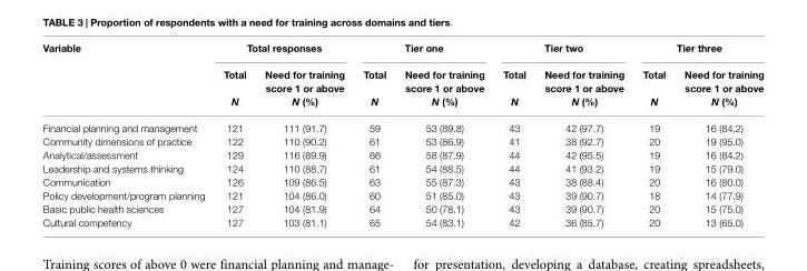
<table><thead><tr><td rowspan="3">Variable</td><td colspan="2">Total responses</td><td colspan="2">Tier one</td><td colspan="2">Tier two</td><td colspan="2">Tier three</td></tr><tr><td rowspan="2">Total N</td><td rowspan="2">Need for training score 1 or above N (%)</td><td rowspan="2">Total N</td><td rowspan="2">Need for training score 1 or above N (%)</td><td rowspan="2">Total N</td><td rowspan="2">Need for training score 1 or above N (%)</td><td rowspan="2">Total N</td><td rowspan="2">Need for training score 1 or above N (%)</td></tr><tr></tr></thead><tbody><tr><td>Financial planning and management</td><td>121</td><td>111 (91.7)</td><td>59</td><td>53 (89.8)</td><td>43</td><td>42 (97.7)</td><td>19</td><td>16 (84.2)</td></tr><tr><td>Community dimensions of practice</td><td>122</td><td>110 (90.2)</td><td>61</td><td>53 (86.9)</td><td>41</td><td>38 (92.7)</td><td>20</td><td>19 (95.0)</td></tr><tr><td>Analytical/assessment</td><td>129</td><td>116 (89.9)</td><td>66</td><td>58 (87.9)</td><td>44</td><td>42 (95.5)</td><td>19</td><td>16 (84.2)</td></tr><tr><td>Leadership and systems thinking</td><td>124</td><td>110 (88.7)</td><td>61</td><td>54 (88.5)</td><td>44</td><td>41 (93.2)</td><td>19</td><td>15 (79.0)</td></tr><tr><td>Communication</td><td>126</td><td>109 (86.5)</td><td>63</td><td>55 (87.3)</td><td>43</td><td>38 (88.4)</td><td>20</td><td>16 (80.0)</td></tr><tr><td>Policy development/program planning</td><td>121</td><td>104 (86.0)</td><td>60</td><td>51 (85.0)</td><td>43</td><td>39 (90.7)</td><td>18</td><td>14 (77.9)</td></tr><tr><td>Basic public health sciences</td><td>127</td><td>104 (81.9)</td><td>64</td><td>50 (78.1)</td><td>43</td><td>39 (90.7)</td><td>20</td><td>15 (75.0)</td></tr><tr><td>Cultural competency</td><td>127</td><td>103 (81.1)</td><td>65</td><td>54 (83.1)</td><td>42</td><td>36 (85.7)</td><td>20</td><td>13 (65.0)</td></tr></tbody></table>